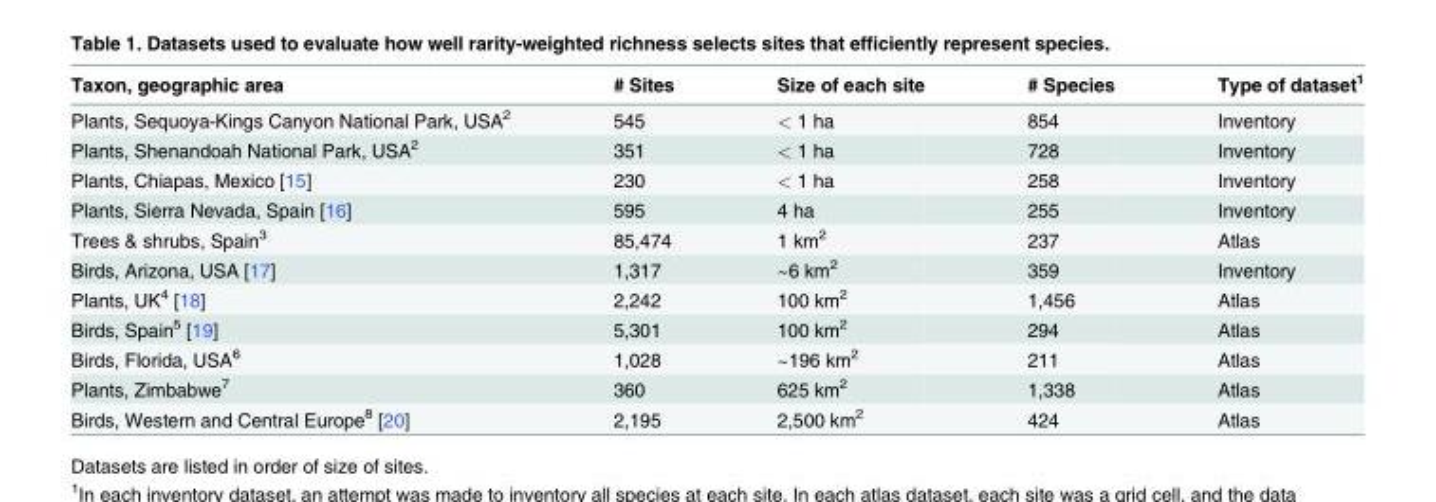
<table><thead><tr><td>Taxon, geographic area</td><td># Sites</td><td>Size of each site</td><td># Species</td><td>Type of dataset<sup>1</sup></td></tr></thead><tbody><tr><td>Plants, Sequoya-Kings Canyon National Park, USA<sup>2</sup></td><td>545</td><td>&lt; 1 ha</td><td>854</td><td>Inventory</td></tr><tr><td>Plants, Shenandoah National Park, USA<sup>2</sup></td><td>351</td><td>&lt; 1 ha</td><td>728</td><td>Inventory</td></tr><tr><td>Plants, Chiapas, Mexico [15]</td><td>230</td><td>&lt; 1 ha</td><td>258</td><td>Inventory</td></tr><tr><td>Plants, Sierra Nevada, Spain [16]</td><td>595</td><td>4 ha</td><td>255</td><td>Inventory</td></tr><tr><td>Trees &amp; shrubs, Spain<sup>3</sup></td><td>85,474</td><td>1 km<sup>2</sup></td><td>237</td><td>Atlas</td></tr><tr><td>Birds, Arizona, USA [17]</td><td>1,317</td><td>~6 km<sup>2</sup></td><td>359</td><td>Inventory</td></tr><tr><td>Plants, UK<sup>4</sup> [18]</td><td>2,242</td><td>100 km<sup>2</sup></td><td>1,456</td><td>Atlas</td></tr><tr><td>Birds, Spain<sup>5</sup> [19]</td><td>5,301</td><td>100 km<sup>2</sup></td><td>294</td><td>Atlas</td></tr><tr><td>Birds, Florida, USA<sup>6</sup></td><td>1,028</td><td>~196 km<sup>2</sup></td><td>211</td><td>Atlas</td></tr><tr><td>Plants, Zimbabwe<sup>7</sup></td><td>360</td><td>625 km<sup>2</sup></td><td>1,338</td><td>Atlas</td></tr><tr><td>Birds, Western and Central Europe<sup>8</sup> [20]</td><td>2,195</td><td>2,500 km<sup>2</sup></td><td>424</td><td>Atlas</td></tr></tbody></table>